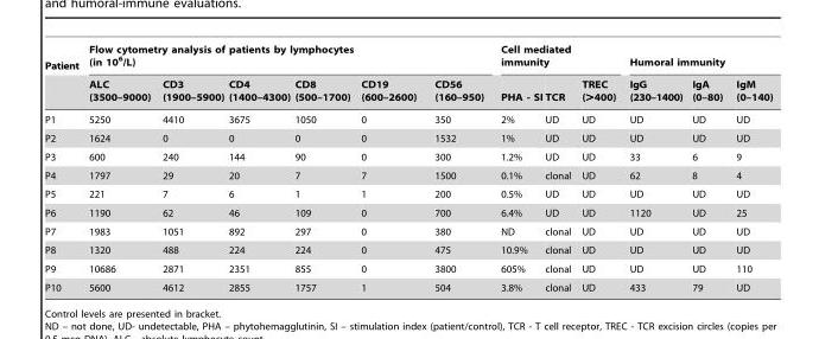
<table><thead><tr><td rowspan="2">Patient</td><td colspan="6">Flow cytometry analysis of patients by lymphocytes (in 10<sup>6</sup>/L)</td><td colspan="3">Cell mediated immunity</td><td colspan="3">Humoral immunity</td></tr><tr><td>ALC (3500–9000)</td><td>CD3 (1900–5900)</td><td>CD4 (1400–4300)</td><td>CD8 (500–1700)</td><td>CD19 (600–2600)</td><td>CD56 (160–950)</td><td>PHA - SI</td><td>TCR</td><td>TREC (&gt;400)</td><td>IgG (230–1400)</td><td>IgA (0–80)</td><td>IgM (0–140)</td></tr></thead><tbody><tr><td>P1</td><td>5250</td><td>4410</td><td>3675</td><td>1050</td><td>0</td><td>350</td><td>2%</td><td>UD</td><td>UD</td><td>UD</td><td>UD</td><td>UD</td></tr><tr><td>P2</td><td>1624</td><td>0</td><td>0</td><td>0</td><td>0</td><td>1532</td><td>1%</td><td>UD</td><td>UD</td><td>UD</td><td>UD</td><td>UD</td></tr><tr><td>P3</td><td>600</td><td>240</td><td>144</td><td>90</td><td>0</td><td>300</td><td>1.2%</td><td>UD</td><td>UD</td><td>33</td><td>6</td><td>9</td></tr><tr><td>P4</td><td>1797</td><td>29</td><td>20</td><td>7</td><td>7</td><td>1500</td><td>0.1%</td><td>clonal</td><td>UD</td><td>62</td><td>8</td><td>4</td></tr><tr><td>P5</td><td>221</td><td>7</td><td>6</td><td>1</td><td>1</td><td>200</td><td>0.5%</td><td>UD</td><td>UD</td><td>UD</td><td>UD</td><td>UD</td></tr><tr><td>P6</td><td>1190</td><td>62</td><td>46</td><td>109</td><td>0</td><td>700</td><td>6.4%</td><td>UD</td><td>UD</td><td>1120</td><td>UD</td><td>25</td></tr><tr><td>P7</td><td>1983</td><td>1051</td><td>892</td><td>297</td><td>0</td><td>380</td><td>ND</td><td>clonal</td><td>UD</td><td>UD</td><td>UD</td><td>UD</td></tr><tr><td>P8</td><td>1320</td><td>488</td><td>224</td><td>224</td><td>0</td><td>475</td><td>10.9%</td><td>clonal</td><td>UD</td><td>UD</td><td>UD</td><td>UD</td></tr><tr><td>P9</td><td>10686</td><td>2871</td><td>2351</td><td>855</td><td>0</td><td>3800</td><td>605%</td><td>clonal</td><td>UD</td><td>UD</td><td>UD</td><td>110</td></tr><tr><td>P10</td><td>5600</td><td>4612</td><td>2855</td><td>1757</td><td>1</td><td>504</td><td>3.8%</td><td>clonal</td><td>UD</td><td>433</td><td>79</td><td>UD</td></tr></tbody></table>